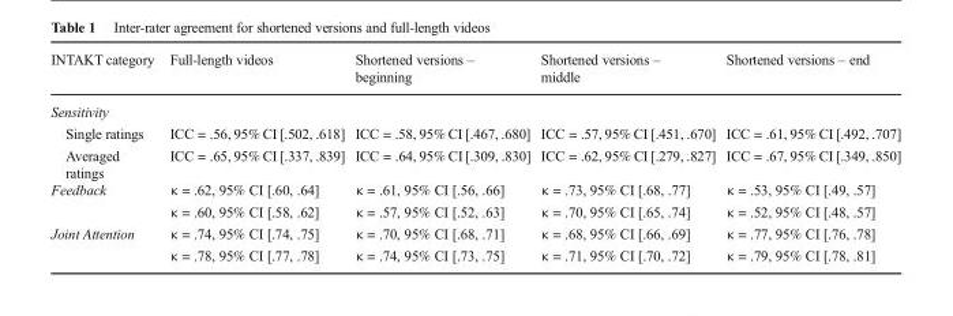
<table><thead><tr><td>INTAKT category</td><td>Full-length videos</td><td>Shortened versions – beginning</td><td>Shortened versions – middle</td><td>Shortened versions – end</td></tr></thead><tbody><tr><td colspan="5">Sensitivity</td></tr><tr><td>Single ratings</td><td>ICC = .56, 95% CI [.502, .618]</td><td>ICC = .58, 95% CI [.467, .680]</td><td>ICC = .57, 95% CI [.451, .670]</td><td>ICC = .61, 95% CI [.492, .707]</td></tr><tr><td>Averaged ratings</td><td>ICC = .65, 95% CI [.337, .839]</td><td>ICC = .64, 95% CI [.309, .830]</td><td>ICC = .62, 95% CI [.279, .827]</td><td>ICC = .67, 95% CI [.349, .850]</td></tr><tr><td rowspan="2">Feedback</td><td>κ = .62, 95% CI [.60, .64]</td><td>κ = .61, 95% CI [.56, .66]</td><td>κ = .73, 95% CI [.68, .77]</td><td>κ = .53, 95% CI [.49, .57]</td></tr><tr><td>κ = .60, 95% CI [.58, .62]</td><td>κ = .57, 95% CI [.52, .63]</td><td>κ = .70, 95% CI [.65, .74]</td><td>κ = .52, 95% CI [.48, .57]</td></tr><tr><td rowspan="2">Joint Attention</td><td>κ = .74, 95% CI [.74, .75]</td><td>κ = .70, 95% CI [.68, .71]</td><td>κ = .68, 95% CI [.66, .69]</td><td>κ = .77, 95% CI [.76, .78]</td></tr><tr><td>κ = .78, 95% CI [.77, .78]</td><td>κ = .74, 95% CI [.73, .75]</td><td>κ = .71, 95% CI [.70, .72]</td><td>κ = .79, 95% CI [.78, .81]</td></tr></tbody></table>